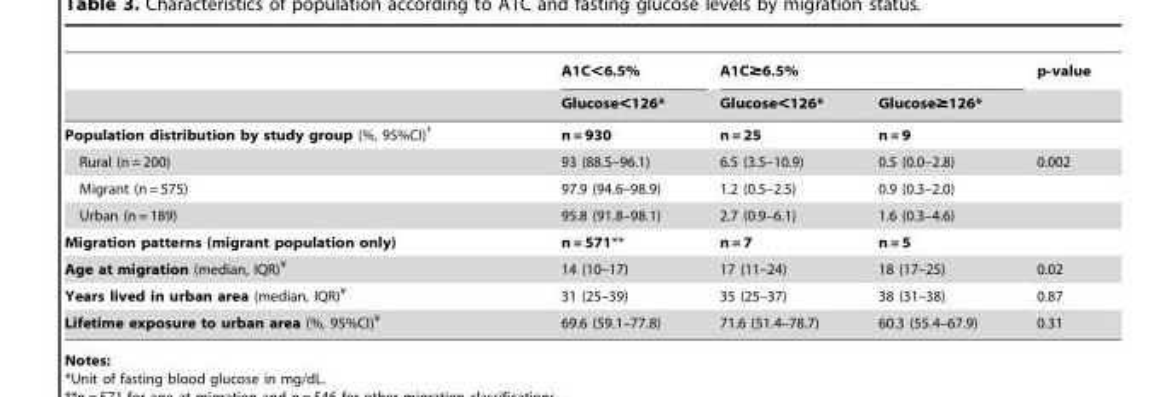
<table><thead><tr><td rowspan="2"></td><td rowspan="2">A1C&lt;6.5% Glucose&lt;126*</td><td colspan="2">A1C≥6.5%</td><td rowspan="2">p-value</td></tr><tr><td>Glucose&lt;126*</td><td>Glucose≥126*</td></tr></thead><tbody><tr><td>Population distribution by study group (%, 95%CI)†</td><td>n = 930</td><td>n = 25</td><td>n = 9</td><td></td></tr><tr><td>Rural (n = 200)</td><td>93 (88.5–96.1)</td><td>6.5 (3.5–10.9)</td><td>0.5 (0.0–2.8)</td><td>0.002</td></tr><tr><td>Migrant (n = 575)</td><td>97.9 (94.6–98.9)</td><td>1.2 (0.5–2.5)</td><td>0.9 (0.3–2.0)</td><td></td></tr><tr><td>Urban (n = 189)</td><td>95.8 (91.8–98.1)</td><td>2.7 (0.9–6.1)</td><td>1.6 (0.3–4.6)</td><td></td></tr><tr><td>Migration patterns (migrant population only)</td><td>n = 571**</td><td>n = 7</td><td>n = 5</td><td></td></tr><tr><td>Age at migration (median, IQR)¥</td><td>14 (10–17)</td><td>17 (11–24)</td><td>18 (17–25)</td><td>0.02</td></tr><tr><td>Years lived in urban area (median, IQR)¥</td><td>31 (25–39)</td><td>35 (25–37)</td><td>38 (31–38)</td><td>0.87</td></tr><tr><td>Lifetime exposure to urban area (%, 95%CI)¥</td><td>69.6 (59.1–77.8)</td><td>71.6 (51.4–78.7)</td><td>60.3 (55.4–67.9)</td><td>0.31</td></tr></tbody></table>